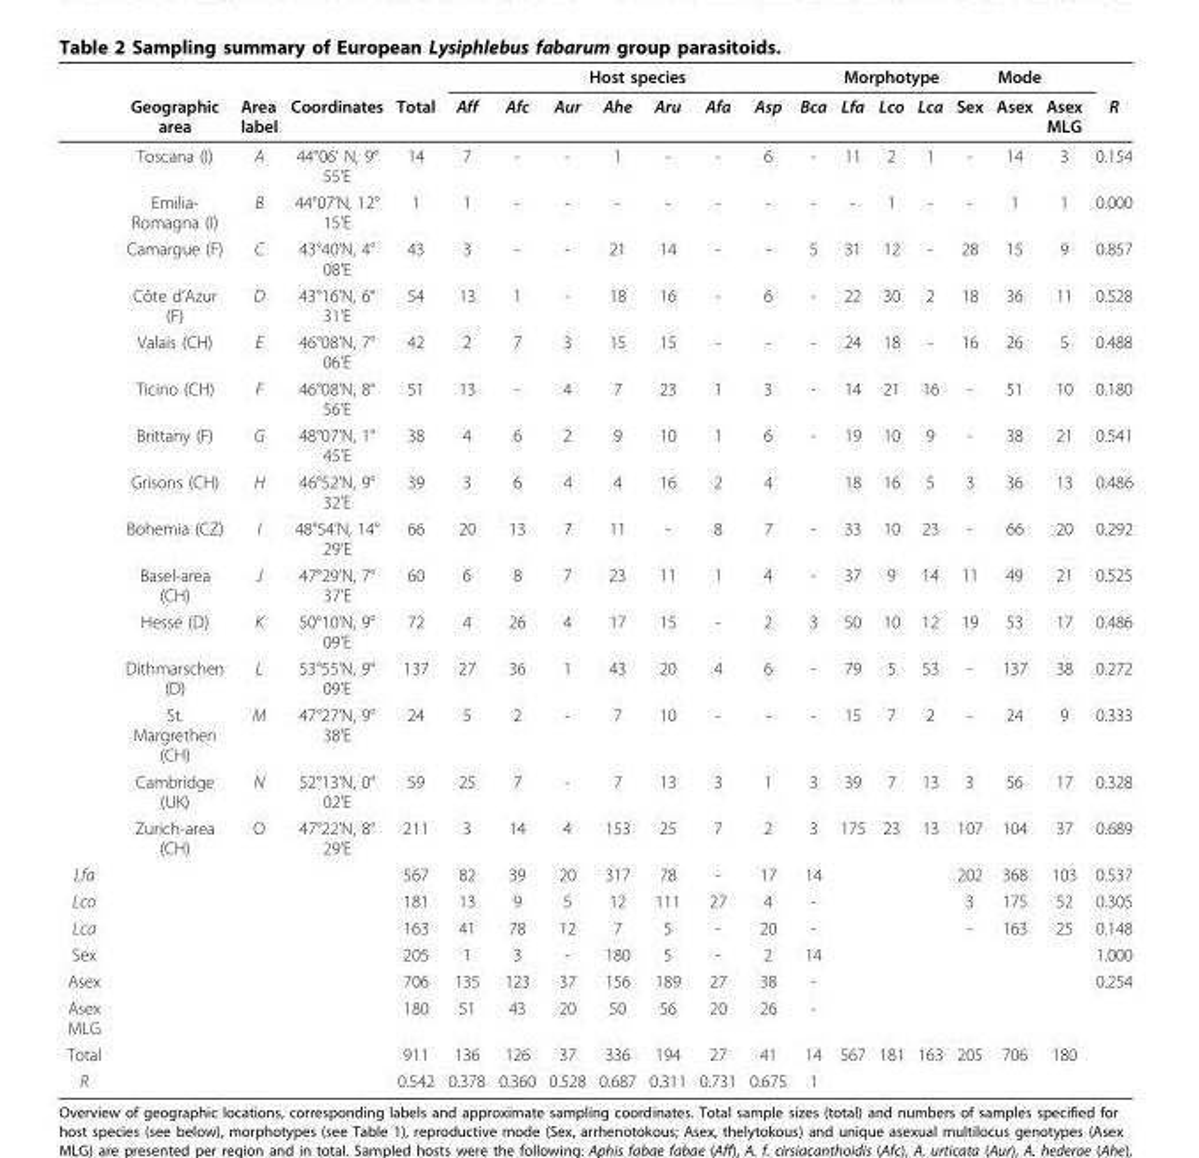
<table><thead><tr><td rowspan="2"></td><td rowspan="2">Geographic area</td><td rowspan="2">Area label</td><td rowspan="2">Coordinates</td><td rowspan="2">Total</td><td colspan="8">Host species</td><td colspan="3">Morphotype</td><td colspan="3">Mode</td><td rowspan="2">R</td></tr><tr><td>Aff</td><td>Afc</td><td>Aur</td><td>Ahe</td><td>Aru</td><td>Afa</td><td>Asp</td><td>Bca</td><td>Lfa</td><td>Lco</td><td>Lca</td><td>Sex</td><td>Asex</td><td>Asex MLG</td></tr></thead><tbody><tr><td></td><td>Toscana (I)</td><td>A</td><td>44°06’ N, 9° 55’E</td><td>14</td><td>7</td><td>-</td><td>-</td><td>1</td><td>-</td><td>-</td><td>6</td><td>-</td><td>11</td><td>2</td><td>1</td><td>-</td><td>14</td><td>3</td><td>0.154</td></tr><tr><td></td><td>Emilia- Romagna (I)</td><td>B</td><td>44°07’N, 12° 15’E</td><td>1</td><td>1</td><td>-</td><td>-</td><td>-</td><td>-</td><td>-</td><td>-</td><td>-</td><td>-</td><td>1</td><td>-</td><td>-</td><td>1</td><td>1</td><td>0.000</td></tr><tr><td></td><td>Camargue (F)</td><td>C</td><td>43°40’N, 4° 08’E</td><td>43</td><td>3</td><td>-</td><td>-</td><td>21</td><td>14</td><td>-</td><td>-</td><td>5</td><td>31</td><td>12</td><td>-</td><td>28</td><td>15</td><td>9</td><td>0.857</td></tr><tr><td></td><td>Côte d’Azur (F)</td><td>D</td><td>43°16’N, 6° 31’E</td><td>54</td><td>13</td><td>1</td><td>-</td><td>18</td><td>16</td><td>-</td><td>6</td><td>-</td><td>22</td><td>30</td><td>2</td><td>18</td><td>36</td><td>11</td><td>0.528</td></tr><tr><td></td><td>Valais (CH)</td><td>E</td><td>46°08’N, 7° 06’E</td><td>42</td><td>2</td><td>7</td><td>3</td><td>15</td><td>15</td><td>-</td><td>-</td><td>-</td><td>24</td><td>18</td><td>-</td><td>16</td><td>26</td><td>5</td><td>0.488</td></tr><tr><td></td><td>Ticino (CH)</td><td>F</td><td>46°08’N, 8° 56’E</td><td>51</td><td>13</td><td>-</td><td>4</td><td>7</td><td>23</td><td>1</td><td>3</td><td>-</td><td>14</td><td>21</td><td>16</td><td>-</td><td>51</td><td>10</td><td>0.180</td></tr><tr><td></td><td>Brittany (F)</td><td>G</td><td>48°07’N, 1° 45’E</td><td>38</td><td>4</td><td>6</td><td>2</td><td>9</td><td>10</td><td>1</td><td>6</td><td>-</td><td>19</td><td>10</td><td>9</td><td>-</td><td>38</td><td>21</td><td>0.541</td></tr><tr><td></td><td>Grisons (CH)</td><td>H</td><td>46°52’N, 9° 32’E</td><td>39</td><td>3</td><td>6</td><td>4</td><td>4</td><td>16</td><td>2</td><td>4</td><td></td><td>18</td><td>16</td><td>5</td><td>3</td><td>36</td><td>13</td><td>0.486</td></tr><tr><td></td><td>Bohemia (CZ)</td><td>I</td><td>48°54’N, 14° 29’E</td><td>66</td><td>20</td><td>13</td><td>7</td><td>11</td><td>-</td><td>8</td><td>7</td><td>-</td><td>33</td><td>10</td><td>23</td><td>-</td><td>66</td><td>20</td><td>0.292</td></tr><tr><td></td><td>Basel-area (CH)</td><td>J</td><td>47°29’N, 7° 37’E</td><td>60</td><td>6</td><td>8</td><td>7</td><td>23</td><td>11</td><td>1</td><td>4</td><td>-</td><td>37</td><td>9</td><td>14</td><td>11</td><td>49</td><td>21</td><td>0.525</td></tr><tr><td></td><td>Hesse (D)</td><td>K</td><td>50°10’N, 9° 09’E</td><td>72</td><td>4</td><td>26</td><td>4</td><td>17</td><td>15</td><td>-</td><td>2</td><td>3</td><td>50</td><td>10</td><td>12</td><td>19</td><td>53</td><td>17</td><td>0.486</td></tr><tr><td></td><td>Dithmarschen (D)</td><td>L</td><td>53°55’N, 9° 09’E</td><td>137</td><td>27</td><td>36</td><td>1</td><td>43</td><td>20</td><td>4</td><td>6</td><td>-</td><td>79</td><td>5</td><td>53</td><td>-</td><td>137</td><td>38</td><td>0.272</td></tr><tr><td></td><td>St. Margrethen (CH)</td><td>M</td><td>47°27’N, 9° 38’E</td><td>24</td><td>5</td><td>2</td><td>-</td><td>7</td><td>10</td><td>-</td><td>-</td><td>-</td><td>15</td><td>7</td><td>2</td><td>-</td><td>24</td><td>9</td><td>0.333</td></tr><tr><td></td><td>Cambridge (UK)</td><td>N</td><td>52°13’N, 0° 02’E</td><td>59</td><td>25</td><td>7</td><td>-</td><td>7</td><td>13</td><td>3</td><td>1</td><td>3</td><td>39</td><td>7</td><td>13</td><td>3</td><td>56</td><td>17</td><td>0.328</td></tr><tr><td></td><td>Zurich-area (CH)</td><td>O</td><td>47°22’N, 8° 29’E</td><td>211</td><td>3</td><td>14</td><td>4</td><td>153</td><td>25</td><td>7</td><td>2</td><td>3</td><td>175</td><td>23</td><td>13</td><td>107</td><td>104</td><td>37</td><td>0.689</td></tr><tr><td>Lfa</td><td></td><td></td><td></td><td>567</td><td>82</td><td>39</td><td>20</td><td>317</td><td>78</td><td>-</td><td>17</td><td>14</td><td></td><td></td><td></td><td>202</td><td>368</td><td>103</td><td>0.537</td></tr><tr><td>Lco</td><td></td><td></td><td></td><td>181</td><td>13</td><td>9</td><td>5</td><td>12</td><td>111</td><td>27</td><td>4</td><td>-</td><td></td><td></td><td></td><td>3</td><td>175</td><td>52</td><td>0.305</td></tr><tr><td>Lca</td><td></td><td></td><td></td><td>163</td><td>41</td><td>78</td><td>12</td><td>7</td><td>5</td><td>-</td><td>20</td><td>-</td><td></td><td></td><td></td><td>-</td><td>163</td><td>25</td><td>0.148</td></tr><tr><td>Sex</td><td></td><td></td><td></td><td>205</td><td>1</td><td>3</td><td>-</td><td>180</td><td>5</td><td>-</td><td>2</td><td>14</td><td></td><td></td><td></td><td></td><td></td><td></td><td>1.000</td></tr><tr><td>Asex</td><td></td><td></td><td></td><td>706</td><td>135</td><td>123</td><td>37</td><td>156</td><td>189</td><td>27</td><td>38</td><td>-</td><td></td><td></td><td></td><td></td><td></td><td></td><td>0.254</td></tr><tr><td>Asex MLG</td><td></td><td></td><td></td><td>180</td><td>51</td><td>43</td><td>20</td><td>50</td><td>56</td><td>20</td><td>26</td><td>-</td><td></td><td></td><td></td><td></td><td></td><td></td><td></td></tr><tr><td>Total</td><td></td><td></td><td></td><td>911</td><td>136</td><td>126</td><td>37</td><td>336</td><td>194</td><td>27</td><td>41</td><td>14</td><td>567</td><td>181</td><td>163</td><td>205</td><td>706</td><td>180</td><td></td></tr><tr><td>R</td><td></td><td></td><td></td><td>0.542</td><td>0.378</td><td>0.360</td><td>0.528</td><td>0.687</td><td>0.311</td><td>0.731</td><td>0.675</td><td>1</td><td></td><td></td><td></td><td></td><td></td><td></td><td></td></tr></tbody></table>